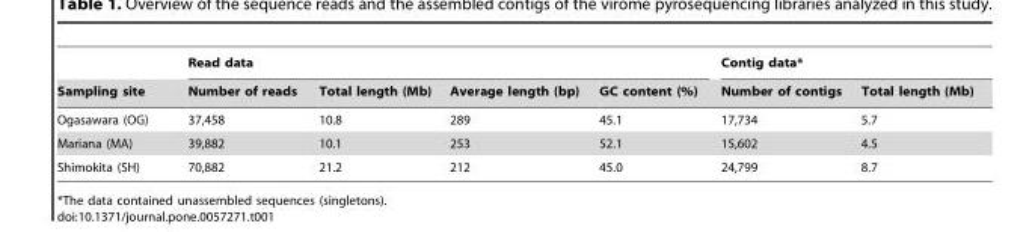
<table><thead><tr><td rowspan="2">Sampling site</td><td colspan="4">Read data</td><td colspan="2">Contig data*</td></tr><tr><td>Number of reads</td><td>Total length (Mb)</td><td>Average length (bp)</td><td>GC content (%)</td><td>Number of contigs</td><td>Total length (Mb)</td></tr></thead><tbody><tr><td>Ogasawara (OG)</td><td>37,458</td><td>10.8</td><td>289</td><td>45.1</td><td>17,734</td><td>5.7</td></tr><tr><td>Mariana (MA)</td><td>39,882</td><td>10.1</td><td>253</td><td>52.1</td><td>15,602</td><td>4.5</td></tr><tr><td>Shimokita (SH)</td><td>70,882</td><td>21.2</td><td>212</td><td>45.0</td><td>24,799</td><td>8.7</td></tr></tbody></table>